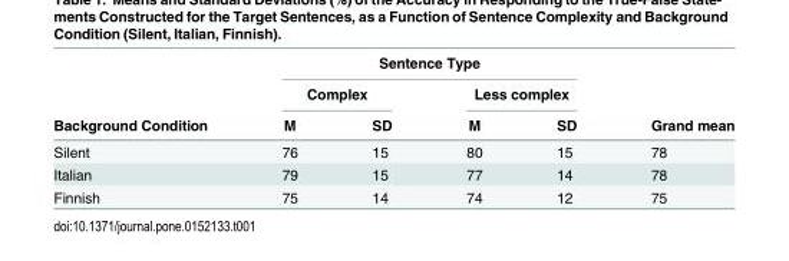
<table><thead><tr><td rowspan="3">Background Condition</td><td colspan="4">Sentence Type</td><td rowspan="3">Grand mean</td></tr><tr><td colspan="2">Complex</td><td colspan="2">Less complex</td></tr><tr><td>M</td><td>SD</td><td>M</td><td>SD</td></tr></thead><tbody><tr><td>Silent</td><td>76</td><td>15</td><td>80</td><td>15</td><td>78</td></tr><tr><td>Italian</td><td>79</td><td>15</td><td>77</td><td>14</td><td>78</td></tr><tr><td>Finnish</td><td>75</td><td>14</td><td>74</td><td>12</td><td>75</td></tr></tbody></table>